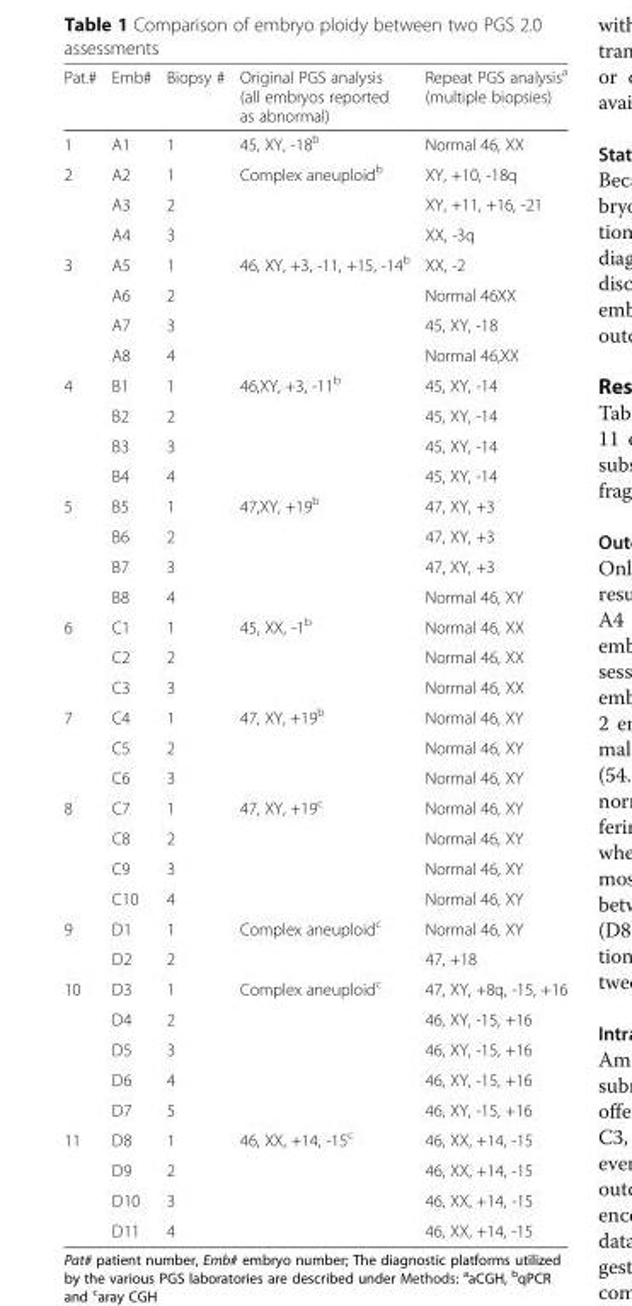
<table><thead><tr><td>Pat.#</td><td>Emb#</td><td>Biopsy #</td><td>Original PGS analysis (all embryos reported as abnormal)</td><td>Repeat PGS analysis<sup>a</sup> (multiple biopsies)</td></tr></thead><tbody><tr><td>1</td><td>A1</td><td>1</td><td>45, XY, -18<sup>b</sup></td><td>Normal 46, XX</td></tr><tr><td rowspan="3">2</td><td>A2</td><td>1</td><td>Complex aneuploid<sup>b</sup></td><td>XY, +10, -18q</td></tr><tr><td>A3</td><td>2</td><td></td><td>XY, +11, +16, -21</td></tr><tr><td>A4</td><td>3</td><td></td><td>XX, -3q</td></tr><tr><td rowspan="4">3</td><td>A5</td><td>1</td><td>46, XY, +3, -11, +15, -14<sup>b</sup></td><td>XX, -2</td></tr><tr><td>A6</td><td>2</td><td></td><td>Normal 46XX</td></tr><tr><td>A7</td><td>3</td><td></td><td>45, XY, -18</td></tr><tr><td>A8</td><td>4</td><td></td><td>Normal 46,XX</td></tr><tr><td rowspan="4">4</td><td>B1</td><td>1</td><td>46,XY, +3, -11<sup>b</sup></td><td>45, XY, -14</td></tr><tr><td>B2</td><td>2</td><td></td><td>45, XY, -14</td></tr><tr><td>B3</td><td>3</td><td></td><td>45, XY, -14</td></tr><tr><td>B4</td><td>4</td><td></td><td>45, XY, -14</td></tr><tr><td rowspan="4">5</td><td>B5</td><td>1</td><td>47,XY, +19<sup>b</sup></td><td>47, XY, +3</td></tr><tr><td>B6</td><td>2</td><td></td><td>47, XY, +3</td></tr><tr><td>B7</td><td>3</td><td></td><td>47, XY, +3</td></tr><tr><td>B8</td><td>4</td><td></td><td>Normal 46, XY</td></tr><tr><td rowspan="3">6</td><td>C1</td><td>1</td><td>45, XX, -1<sup>b</sup></td><td>Normal 46, XX</td></tr><tr><td>C2</td><td>2</td><td></td><td>Normal 46, XX</td></tr><tr><td>C3</td><td>3</td><td></td><td>Normal 46, XX</td></tr><tr><td rowspan="3">7</td><td>C4</td><td>1</td><td>47, XY, +19<sup>b</sup></td><td>Normal 46, XY</td></tr><tr><td>C5</td><td>2</td><td></td><td>Normal 46, XY</td></tr><tr><td>C6</td><td>3</td><td></td><td>Normal 46, XY</td></tr><tr><td rowspan="4">8</td><td>C7</td><td>1</td><td>47, XY, +19<sup>c</sup></td><td>Normal 46, XY</td></tr><tr><td>C8</td><td>2</td><td></td><td>Normal 46, XY</td></tr><tr><td>C9</td><td>3</td><td></td><td>Normal 46, XY</td></tr><tr><td>C10</td><td>4</td><td></td><td>Normal 46, XY</td></tr><tr><td rowspan="2">9</td><td>D1</td><td>1</td><td>Complex aneuploid<sup>c</sup></td><td>Normal 46, XY</td></tr><tr><td>D2</td><td>2</td><td></td><td>47, +18</td></tr><tr><td rowspan="5">10</td><td>D3</td><td>1</td><td>Complex aneuploid<sup>c</sup></td><td>47, XY, +8q, -15, +16</td></tr><tr><td>D4</td><td>2</td><td></td><td>46, XY, -15, +16</td></tr><tr><td>D5</td><td>3</td><td></td><td>46, XY, -15, +16</td></tr><tr><td>D6</td><td>4</td><td></td><td>46, XY, -15, +16</td></tr><tr><td>D7</td><td>5</td><td></td><td>46, XY, -15, +16</td></tr><tr><td rowspan="4">11</td><td>D8</td><td>1</td><td>46, XX, +14, -15<sup>c</sup></td><td>46, XX, +14, -15</td></tr><tr><td>D9</td><td>2</td><td></td><td>46, XX, +14, -15</td></tr><tr><td>D10</td><td>3</td><td></td><td>46, XX, +14, -15</td></tr><tr><td>D11</td><td>4</td><td></td><td>46, XX, +14, -15</td></tr></tbody></table>